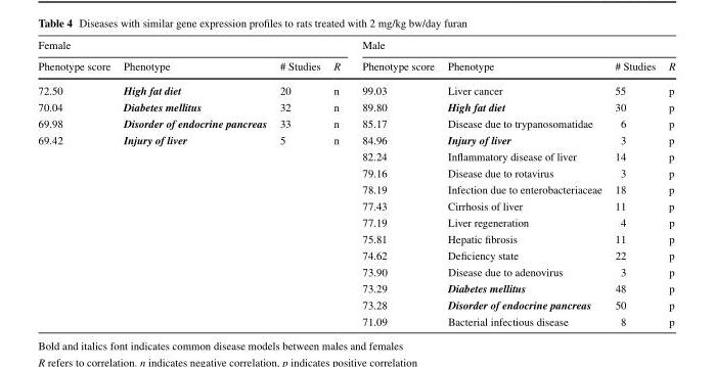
<table><thead><tr><td colspan="4">Female</td><td colspan="4">Male</td></tr><tr><td>Phenotype score</td><td>Phenotype</td><td># Studies</td><td>R</td><td>Phenotype score</td><td>Phenotype</td><td># Studies</td><td>R</td></tr></thead><tbody><tr><td>72.50</td><td>High fat diet</td><td>20</td><td>n</td><td>99.03</td><td>Liver cancer</td><td>55</td><td>p</td></tr><tr><td>70.04</td><td>Diabetes mellitus</td><td>32</td><td>n</td><td>89.80</td><td>High fat diet</td><td>30</td><td>p</td></tr><tr><td>69.98</td><td>Disorder of endocrine pancreas</td><td>33</td><td>n</td><td>85.17</td><td>Disease due to trypanosomatidae</td><td>6</td><td>p</td></tr><tr><td rowspan="12">69.42</td><td>Injury of liver</td><td>5</td><td>n</td><td>84.96</td><td>Injury of liver</td><td>3</td><td>p</td></tr><tr><td></td><td></td><td></td><td>82.24</td><td>Inflammatory disease of liver</td><td>14</td><td>p</td></tr><tr><td></td><td></td><td></td><td>79.16</td><td>Disease due to rotavirus</td><td>3</td><td>p</td></tr><tr><td></td><td></td><td></td><td>78.19</td><td>Infection due to enterobacteriaceae</td><td>18</td><td>p</td></tr><tr><td></td><td></td><td></td><td>77.43</td><td>Cirrhosis of liver</td><td>11</td><td>p</td></tr><tr><td></td><td></td><td></td><td>77.19</td><td>Liver regeneration</td><td>4</td><td>p</td></tr><tr><td></td><td></td><td></td><td>75.81</td><td>Hepatic fibrosis</td><td>11</td><td>p</td></tr><tr><td></td><td></td><td></td><td>74.62</td><td>Deficiency state</td><td>22</td><td>p</td></tr><tr><td></td><td></td><td></td><td>73.90</td><td>Disease due to adenovirus</td><td>3</td><td>p</td></tr><tr><td></td><td></td><td></td><td>73.29</td><td>Diabetes mellitus</td><td>48</td><td>p</td></tr><tr><td></td><td></td><td></td><td>73.28</td><td>Disorder of endocrine pancreas</td><td>50</td><td>p</td></tr><tr><td></td><td></td><td></td><td>71.09</td><td>Bacterial infectious disease</td><td>8</td><td>p</td></tr></tbody></table>